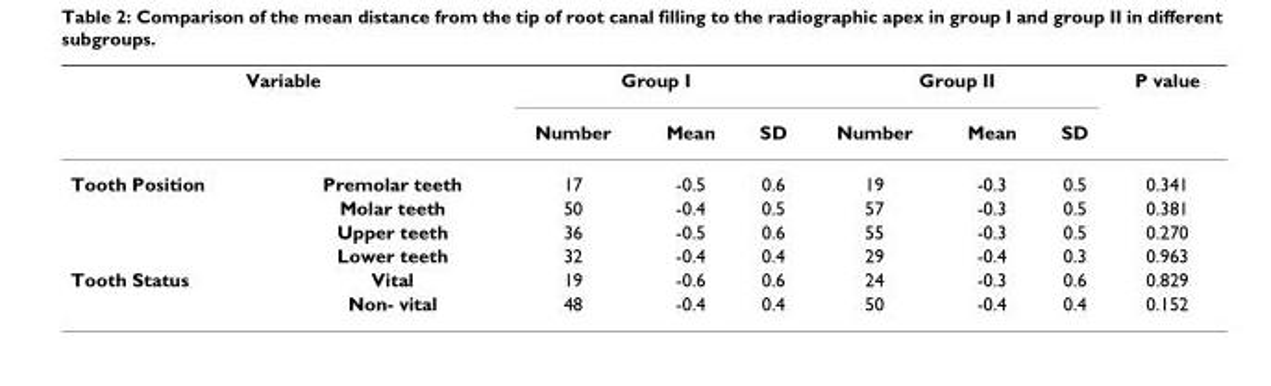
<table><thead><tr><td colspan="2">Variable</td><td colspan="3">Group I</td><td colspan="3">Group II</td><td rowspan="2">P value</td></tr><tr><td></td><td></td><td>Number</td><td>Mean</td><td>SD</td><td>Number</td><td>Mean</td><td>SD</td></tr></thead><tbody><tr><td rowspan="4">Tooth Position</td><td>Premolar teeth</td><td>17</td><td>-0.5</td><td>0.6</td><td>19</td><td>-0.3</td><td>0.5</td><td>0.341</td></tr><tr><td>Molar teeth</td><td>50</td><td>-0.4</td><td>0.5</td><td>57</td><td>-0.3</td><td>0.5</td><td>0.381</td></tr><tr><td>Upper teeth</td><td>36</td><td>-0.5</td><td>0.6</td><td>55</td><td>-0.3</td><td>0.5</td><td>0.270</td></tr><tr><td>Lower teeth</td><td>32</td><td>-0.4</td><td>0.4</td><td>29</td><td>-0.4</td><td>0.3</td><td>0.963</td></tr><tr><td rowspan="2">Tooth Status</td><td>Vital</td><td>19</td><td>-0.6</td><td>0.6</td><td>24</td><td>-0.3</td><td>0.6</td><td>0.829</td></tr><tr><td>Non- vital</td><td>48</td><td>-0.4</td><td>0.4</td><td>50</td><td>-0.4</td><td>0.4</td><td>0.152</td></tr></tbody></table>